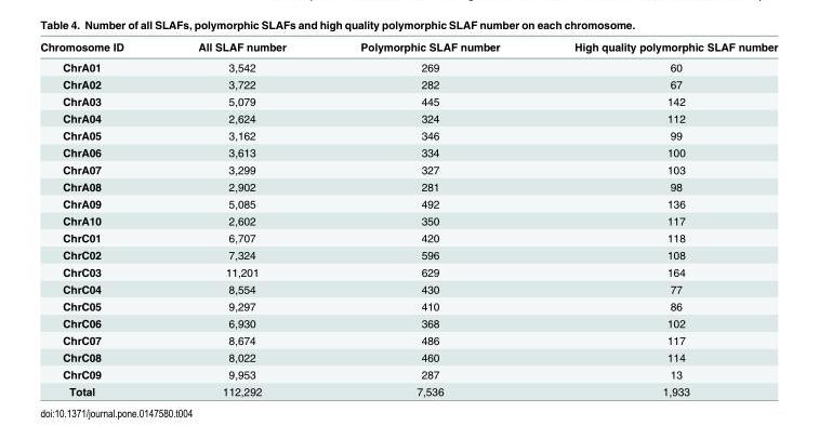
<table><thead><tr><td>Chromosome ID</td><td>All SLAF number</td><td>Polymorphic SLAF number</td><td>High quality polymorphic SLAF number</td></tr></thead><tbody><tr><td>ChrA01</td><td>3,542</td><td>269</td><td>60</td></tr><tr><td>ChrA02</td><td>3,722</td><td>282</td><td>67</td></tr><tr><td>ChrA03</td><td>5,079</td><td>445</td><td>142</td></tr><tr><td>ChrA04</td><td>2,624</td><td>324</td><td>112</td></tr><tr><td>ChrA05</td><td>3,162</td><td>346</td><td>99</td></tr><tr><td>ChrA06</td><td>3,613</td><td>334</td><td>100</td></tr><tr><td>ChrA07</td><td>3,299</td><td>327</td><td>103</td></tr><tr><td>ChrA08</td><td>2,902</td><td>281</td><td>98</td></tr><tr><td>ChrA09</td><td>5,085</td><td>492</td><td>136</td></tr><tr><td>ChrA10</td><td>2,602</td><td>350</td><td>117</td></tr><tr><td>ChrC01</td><td>6,707</td><td>420</td><td>118</td></tr><tr><td>ChrC02</td><td>7,324</td><td>596</td><td>108</td></tr><tr><td>ChrC03</td><td>11,201</td><td>629</td><td>164</td></tr><tr><td>ChrC04</td><td>8,554</td><td>430</td><td>77</td></tr><tr><td>ChrC05</td><td>9,297</td><td>410</td><td>86</td></tr><tr><td>ChrC06</td><td>6,930</td><td>368</td><td>102</td></tr><tr><td>ChrC07</td><td>8,674</td><td>486</td><td>117</td></tr><tr><td>ChrC08</td><td>8,022</td><td>460</td><td>114</td></tr><tr><td>ChrC09</td><td>9,953</td><td>287</td><td>13</td></tr><tr><td>Total</td><td>112,292</td><td>7,536</td><td>1,933</td></tr></tbody></table>